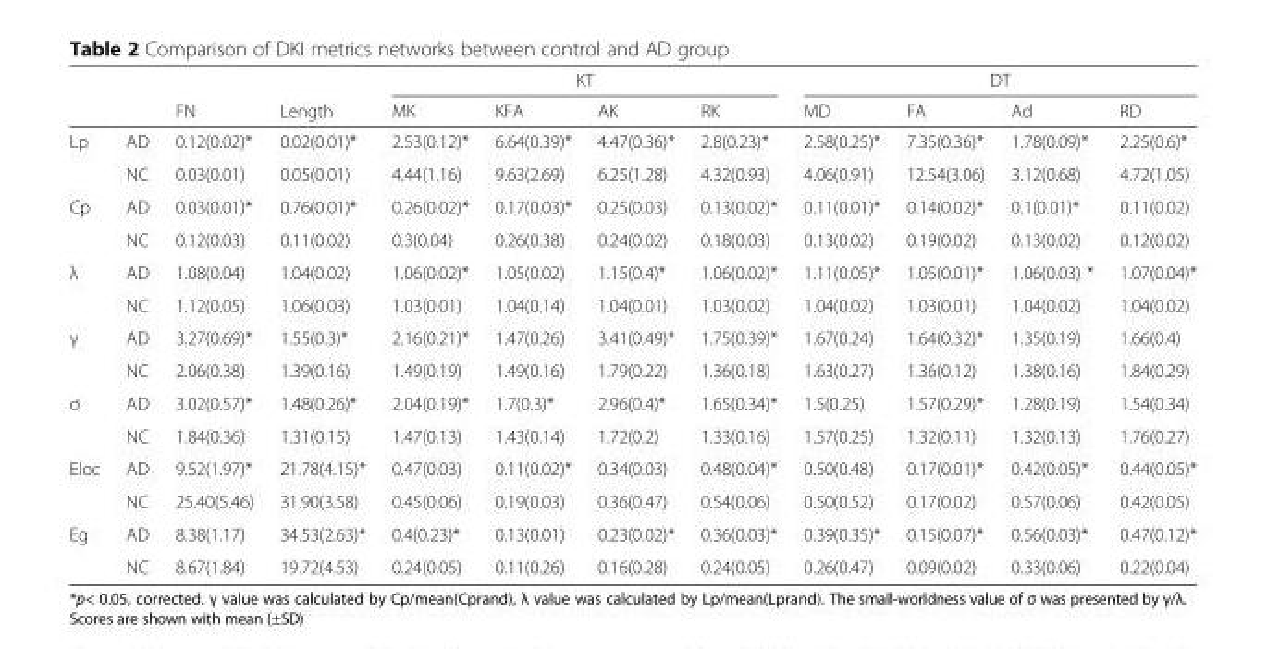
<table><thead><tr><td rowspan="2"></td><td rowspan="2"></td><td rowspan="2">FN</td><td rowspan="2">Length</td><td colspan="4">KT</td><td colspan="4">DT</td></tr><tr><td>MK</td><td>KFA</td><td>AK</td><td>RK</td><td>MD</td><td>FA</td><td>Ad</td><td>RD</td></tr></thead><tbody><tr><td rowspan="2">Lp</td><td>AD</td><td>0.12(0.02)*</td><td>0.02(0.01)*</td><td>2.53(0.12)*</td><td>6.64(0.39)*</td><td>4.47(0.36)*</td><td>2.8(0.23)*</td><td>2.58(0.25)*</td><td>7.35(0.36)*</td><td>1.78(0.09)*</td><td>2.25(0.6)*</td></tr><tr><td>NC</td><td>0.03(0.01)</td><td>0.05(0.01)</td><td>4.44(1.16)</td><td>9.63(2.69)</td><td>6.25(1.28)</td><td>4.32(0.93)</td><td>4.06(0.91)</td><td>12.54(3.06)</td><td>3.12(0.68)</td><td>4.72(1.05)</td></tr><tr><td rowspan="2">Cp</td><td>AD</td><td>0.03(0.01)*</td><td>0.76(0.01)*</td><td>0.26(0.02)*</td><td>0.17(0.03)*</td><td>0.25(0.03)</td><td>0.13(0.02)*</td><td>0.11(0.01)*</td><td>0.14(0.02)*</td><td>0.1(0.01)*</td><td>0.11(0.02)</td></tr><tr><td>NC</td><td>0.12(0.03)</td><td>0.11(0.02)</td><td>0.3(0.04)</td><td>0.26(0.38)</td><td>0.24(0.02)</td><td>0.18(0.03)</td><td>0.13(0.02)</td><td>0.19(0.02)</td><td>0.13(0.02)</td><td>0.12(0.02)</td></tr><tr><td rowspan="2">λ</td><td>AD</td><td>1.08(0.04)</td><td>1.04(0.02)</td><td>1.06(0.02)*</td><td>1.05(0.02)</td><td>1.15(0.4)*</td><td>1.06(0.02)*</td><td>1.11(0.05)*</td><td>1.05(0.01)*</td><td>1.06(0.03) *</td><td>1.07(0.04)*</td></tr><tr><td>NC</td><td>1.12(0.05)</td><td>1.06(0.03)</td><td>1.03(0.01)</td><td>1.04(0.14)</td><td>1.04(0.01)</td><td>1.03(0.02)</td><td>1.04(0.02)</td><td>1.03(0.01)</td><td>1.04(0.02)</td><td>1.04(0.02)</td></tr><tr><td rowspan="2">γ</td><td>AD</td><td>3.27(0.69)*</td><td>1.55(0.3)*</td><td>2.16(0.21)*</td><td>1.47(0.26)</td><td>3.41(0.49)*</td><td>1.75(0.39)*</td><td>1.67(0.24)</td><td>1.64(0.32)*</td><td>1.35(0.19)</td><td>1.66(0.4)</td></tr><tr><td>NC</td><td>2.06(0.38)</td><td>1.39(0.16)</td><td>1.49(0.19)</td><td>1.49(0.16)</td><td>1.79(0.22)</td><td>1.36(0.18)</td><td>1.63(0.27)</td><td>1.36(0.12)</td><td>1.38(0.16)</td><td>1.84(0.29)</td></tr><tr><td rowspan="2">σ</td><td>AD</td><td>3.02(0.57)*</td><td>1.48(0.26)*</td><td>2.04(0.19)*</td><td>1.7(0.3)*</td><td>2.96(0.4)*</td><td>1.65(0.34)*</td><td>1.5(0.25)</td><td>1.57(0.29)*</td><td>1.28(0.19)</td><td>1.54(0.34)</td></tr><tr><td>NC</td><td>1.84(0.36)</td><td>1.31(0.15)</td><td>1.47(0.13)</td><td>1.43(0.14)</td><td>1.72(0.2)</td><td>1.33(0.16)</td><td>1.57(0.25)</td><td>1.32(0.11)</td><td>1.32(0.13)</td><td>1.76(0.27)</td></tr><tr><td rowspan="2">Eloc</td><td>AD</td><td>9.52(1.97)*</td><td>21.78(4.15)*</td><td>0.47(0.03)</td><td>0.11(0.02)*</td><td>0.34(0.03)</td><td>0.48(0.04)*</td><td>0.50(0.48)</td><td>0.17(0.01)*</td><td>0.42(0.05)*</td><td>0.44(0.05)*</td></tr><tr><td>NC</td><td>25.40(5.46)</td><td>31.90(3.58)</td><td>0.45(0.06)</td><td>0.19(0.03)</td><td>0.36(0.47)</td><td>0.54(0.06)</td><td>0.50(0.52)</td><td>0.17(0.02)</td><td>0.57(0.06)</td><td>0.42(0.05)</td></tr><tr><td rowspan="2">Eg</td><td>AD</td><td>8.38(1.17)</td><td>34.53(2.63)*</td><td>0.4(0.23)*</td><td>0.13(0.01)</td><td>0.23(0.02)*</td><td>0.36(0.03)*</td><td>0.39(0.35)*</td><td>0.15(0.07)*</td><td>0.56(0.03)*</td><td>0.47(0.12)*</td></tr><tr><td>NC</td><td>8.67(1.84)</td><td>19.72(4.53)</td><td>0.24(0.05)</td><td>0.11(0.26)</td><td>0.16(0.28)</td><td>0.24(0.05)</td><td>0.26(0.47)</td><td>0.09(0.02)</td><td>0.33(0.06)</td><td>0.22(0.04)</td></tr></tbody></table>